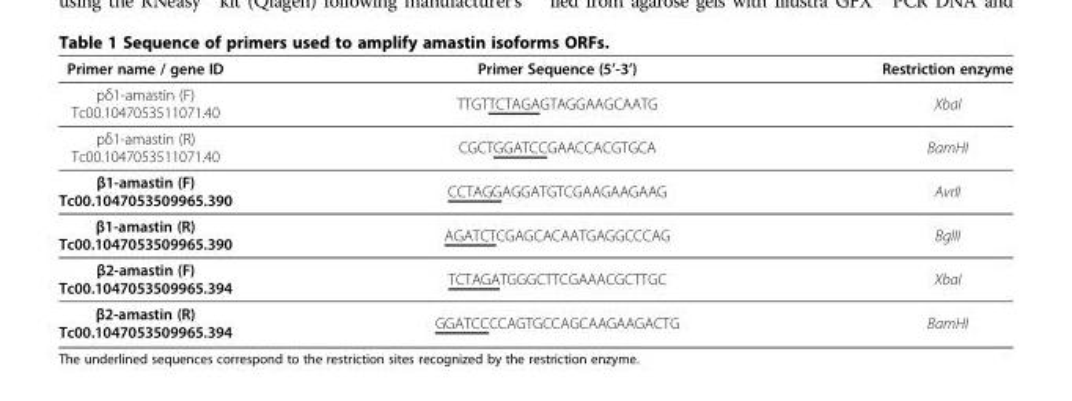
<table><thead><tr><td>Primer name / gene ID</td><td>Primer Sequence (5’-3’)</td><td>Restriction enzyme</td></tr></thead><tbody><tr><td>pδ1-amastin (F) Tc00.1047053511071.40</td><td>TTGTTCTAGAGTAGGAAGCAATG</td><td>XbaI</td></tr><tr><td>pδ1-amastin (R) Tc00.1047053511071.40</td><td>CGCTGGATCCGAACCACGTGCA</td><td>BamHI</td></tr><tr><td>β1-amastin (F) Tc00.1047053509965.390</td><td>CCTAGGAGGATGTCGAAGAAGAAG</td><td>AvrII</td></tr><tr><td>β1-amastin (R) Tc00.1047053509965.390</td><td>AGATCTCGAGCACAATGAGGCCCAG</td><td>BglII</td></tr><tr><td>β2-amastin (F) Tc00.1047053509965.394</td><td>TCTAGATGGGCTTCGAAACGCTTGC</td><td>XbaI</td></tr><tr><td>β2-amastin (R) Tc00.1047053509965.394</td><td>GGATCCCCAGTGCCAGCAAGAAGACTG</td><td>BamHI</td></tr></tbody></table>